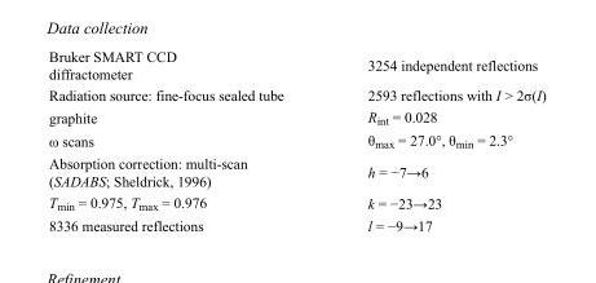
<table><tbody><tr><td>Bruker SMART CCD diffractometer</td><td>3254 independent reflections</td></tr><tr><td>Radiation source: fine-focus sealed tube</td><td>2593 reflections with I &gt; 2σ(I)</td></tr><tr><td>graphite</td><td>R<sub>int</sub> = 0.028</td></tr><tr><td>ω scans</td><td>θ<sub>max</sub> = 27.0°, θ<sub>min</sub> = 2.3°</td></tr><tr><td>Absorption correction: multi-scan (SADABS; Sheldrick, 1996)</td><td>h = −7→6</td></tr><tr><td>T<sub>min</sub> = 0.975, T<sub>max</sub> = 0.976</td><td>k = −23→23</td></tr><tr><td>8336 measured reflections</td><td>l = −9→17</td></tr></tbody></table>